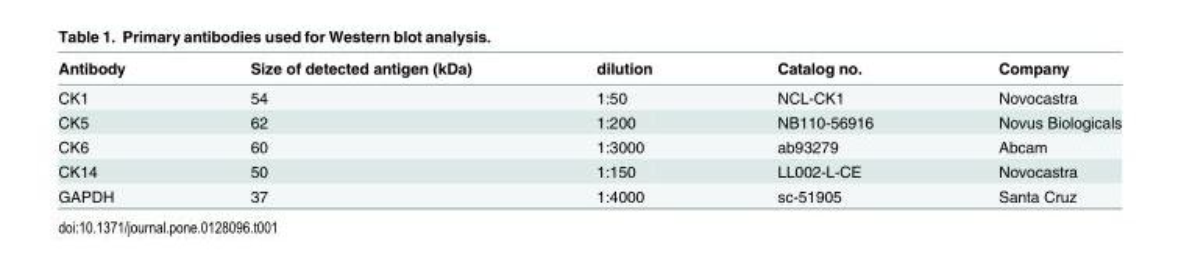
<table><thead><tr><td>Antibody</td><td>Size of detected antigen (kDa)</td><td>dilution</td><td>Catalog no.</td><td>Company</td></tr></thead><tbody><tr><td>CK1</td><td>54</td><td>1:50</td><td>NCL-CK1</td><td>Novocastra</td></tr><tr><td>CK5</td><td>62</td><td>1:200</td><td>NB110-56916</td><td>Novus Biologicals</td></tr><tr><td>CK6</td><td>60</td><td>1:3000</td><td>ab93279</td><td>Abcam</td></tr><tr><td>CK14</td><td>50</td><td>1:150</td><td>LL002-L-CE</td><td>Novocastra</td></tr><tr><td>GAPDH</td><td>37</td><td>1:4000</td><td>sc-51905</td><td>Santa Cruz</td></tr></tbody></table>